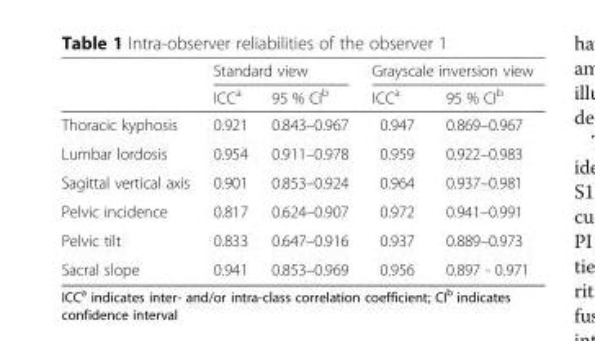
<table><thead><tr><td rowspan="2"></td><td colspan="2">Standard view</td><td colspan="2">Grayscale inversion view</td></tr><tr><td>ICC<sup>a</sup></td><td>95 % CI<sup>b</sup></td><td>ICC<sup>a</sup></td><td>95 % CI<sup>b</sup></td></tr></thead><tbody><tr><td>Thoracic kyphosis</td><td>0.921</td><td>0.843–0.967</td><td>0.947</td><td>0.869–0.967</td></tr><tr><td>Lumbar lordosis</td><td>0.954</td><td>0.911–0.978</td><td>0.959</td><td>0.922–0.983</td></tr><tr><td>Sagittal vertical axis</td><td>0.901</td><td>0.853–0.924</td><td>0.964</td><td>0.937–0.981</td></tr><tr><td>Pelvic incidence</td><td>0.817</td><td>0.624–0.907</td><td>0.972</td><td>0.941–0.991</td></tr><tr><td>Pelvic tilt</td><td>0.833</td><td>0.647–0.916</td><td>0.937</td><td>0.889–0.973</td></tr><tr><td>Sacral slope</td><td>0.941</td><td>0.853–0.969</td><td>0.956</td><td>0.897 - 0.971</td></tr></tbody></table>